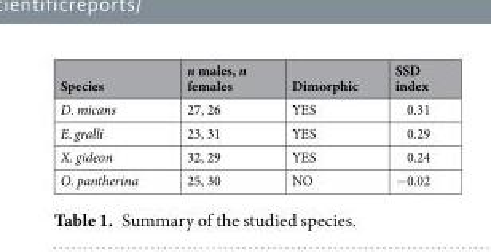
<table><thead><tr><td>Species</td><td>n males, n females</td><td>Dimorphic</td><td>SSD index</td></tr></thead><tbody><tr><td>D. micans</td><td>27, 26</td><td>YES</td><td>0.31</td></tr><tr><td>E. gralli</td><td>23, 31</td><td>YES</td><td>0.29</td></tr><tr><td>X. gideon</td><td>32, 29</td><td>YES</td><td>0.24</td></tr><tr><td>O. pantherina</td><td>25, 30</td><td>NO</td><td>−0.02</td></tr></tbody></table>